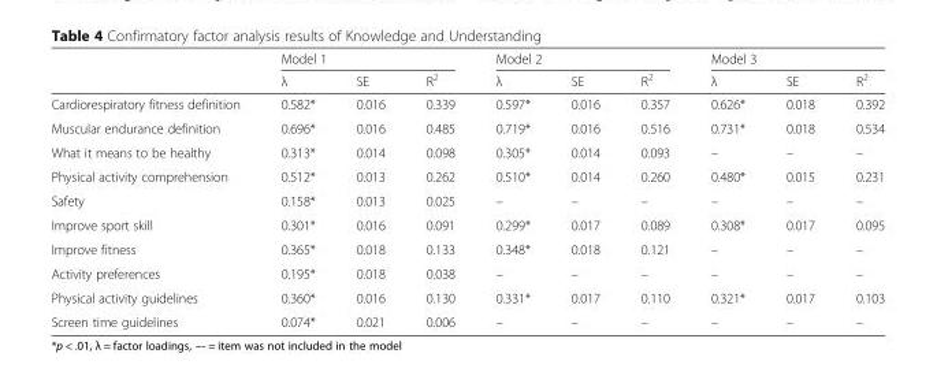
<table><thead><tr><td rowspan="2"></td><td colspan="3">Model 1</td><td colspan="3">Model 2</td><td colspan="3">Model 3</td></tr><tr><td>λ</td><td>SE</td><td>R<sup>2</sup></td><td>λ</td><td>SE</td><td>R<sup>2</sup></td><td>λ</td><td>SE</td><td>R<sup>2</sup></td></tr></thead><tbody><tr><td>Cardiorespiratory fitness definition</td><td>0.582*</td><td>0.016</td><td>0.339</td><td>0.597*</td><td>0.016</td><td>0.357</td><td>0.626*</td><td>0.018</td><td>0.392</td></tr><tr><td>Muscular endurance definition</td><td>0.696*</td><td>0.016</td><td>0.485</td><td>0.719*</td><td>0.016</td><td>0.516</td><td>0.731*</td><td>0.018</td><td>0.534</td></tr><tr><td>What it means to be healthy</td><td>0.313*</td><td>0.014</td><td>0.098</td><td>0.305*</td><td>0.014</td><td>0.093</td><td>–</td><td>–</td><td>–</td></tr><tr><td>Physical activity comprehension</td><td>0.512*</td><td>0.013</td><td>0.262</td><td>0.510*</td><td>0.014</td><td>0.260</td><td>0.480*</td><td>0.015</td><td>0.231</td></tr><tr><td>Safety</td><td>0.158*</td><td>0.013</td><td>0.025</td><td>–</td><td>–</td><td>–</td><td>–</td><td>–</td><td>–</td></tr><tr><td>Improve sport skill</td><td>0.301*</td><td>0.016</td><td>0.091</td><td>0.299*</td><td>0.017</td><td>0.089</td><td>0.308*</td><td>0.017</td><td>0.095</td></tr><tr><td>Improve fitness</td><td>0.365*</td><td>0.018</td><td>0.133</td><td>0.348*</td><td>0.018</td><td>0.121</td><td>–</td><td>–</td><td>–</td></tr><tr><td>Activity preferences</td><td>0.195*</td><td>0.018</td><td>0.038</td><td>–</td><td>–</td><td>–</td><td>–</td><td>–</td><td>–</td></tr><tr><td>Physical activity guidelines</td><td>0.360*</td><td>0.016</td><td>0.130</td><td>0.331*</td><td>0.017</td><td>0.110</td><td>0.321*</td><td>0.017</td><td>0.103</td></tr><tr><td>Screen time guidelines</td><td>0.074*</td><td>0.021</td><td>0.006</td><td>–</td><td>–</td><td>–</td><td>–</td><td>–</td><td>–</td></tr></tbody></table>